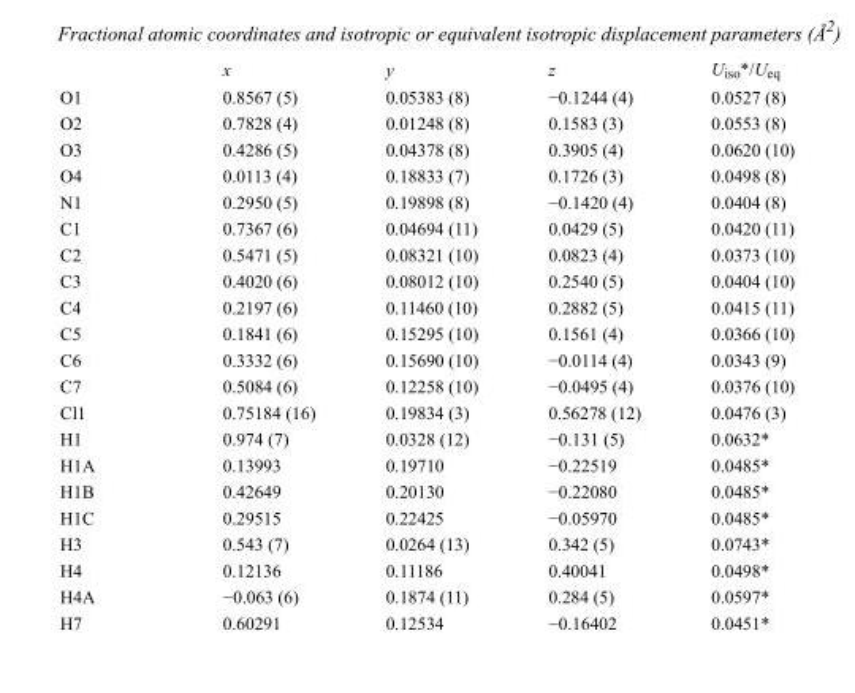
<table><thead><tr><td></td><td>x</td><td>y</td><td>z</td><td>U<sub>iso</sub>*/U<sub>eq</sub></td></tr></thead><tbody><tr><td>O1</td><td>0.8567 (5)</td><td>0.05383 (8)</td><td>−0.1244 (4)</td><td>0.0527 (8)</td></tr><tr><td>O2</td><td>0.7828 (4)</td><td>0.01248 (8)</td><td>0.1583 (3)</td><td>0.0553 (8)</td></tr><tr><td>O3</td><td>0.4286 (5)</td><td>0.04378 (8)</td><td>0.3905 (4)</td><td>0.0620 (10)</td></tr><tr><td>O4</td><td>0.0113 (4)</td><td>0.18833 (7)</td><td>0.1726 (3)</td><td>0.0498 (8)</td></tr><tr><td>N1</td><td>0.2950 (5)</td><td>0.19898 (8)</td><td>−0.1420 (4)</td><td>0.0404 (8)</td></tr><tr><td>C1</td><td>0.7367 (6)</td><td>0.04694 (11)</td><td>0.0429 (5)</td><td>0.0420 (11)</td></tr><tr><td>C2</td><td>0.5471 (5)</td><td>0.08321 (10)</td><td>0.0823 (4)</td><td>0.0373 (10)</td></tr><tr><td>C3</td><td>0.4020 (6)</td><td>0.08012 (10)</td><td>0.2540 (5)</td><td>0.0404 (10)</td></tr><tr><td>C4</td><td>0.2197 (6)</td><td>0.11460 (10)</td><td>0.2882 (5)</td><td>0.0415 (11)</td></tr><tr><td>C5</td><td>0.1841 (6)</td><td>0.15295 (10)</td><td>0.1561 (4)</td><td>0.0366 (10)</td></tr><tr><td>C6</td><td>0.3332 (6)</td><td>0.15690 (10)</td><td>−0.0114 (4)</td><td>0.0343 (9)</td></tr><tr><td>C7</td><td>0.5084 (6)</td><td>0.12258 (10)</td><td>−0.0495 (4)</td><td>0.0376 (10)</td></tr><tr><td>Cl1</td><td>0.75184 (16)</td><td>0.19834 (3)</td><td>0.56278 (12)</td><td>0.0476 (3)</td></tr><tr><td>H1</td><td>0.974 (7)</td><td>0.0328 (12)</td><td>−0.131 (5)</td><td>0.0632*</td></tr><tr><td>H1A</td><td>0.13993</td><td>0.19710</td><td>−0.22519</td><td>0.0485*</td></tr><tr><td>H1B</td><td>0.42649</td><td>0.20130</td><td>−0.22080</td><td>0.0485*</td></tr><tr><td>H1C</td><td>0.29515</td><td>0.22425</td><td>−0.05970</td><td>0.0485*</td></tr><tr><td>H3</td><td>0.543 (7)</td><td>0.0264 (13)</td><td>0.342 (5)</td><td>0.0743*</td></tr><tr><td>H4</td><td>0.12136</td><td>0.11186</td><td>0.40041</td><td>0.0498*</td></tr><tr><td>H4A</td><td>−0.063 (6)</td><td>0.1874 (11)</td><td>0.284 (5)</td><td>0.0597*</td></tr><tr><td>H7</td><td>0.60291</td><td>0.12534</td><td>−0.16402</td><td>0.0451*</td></tr></tbody></table>